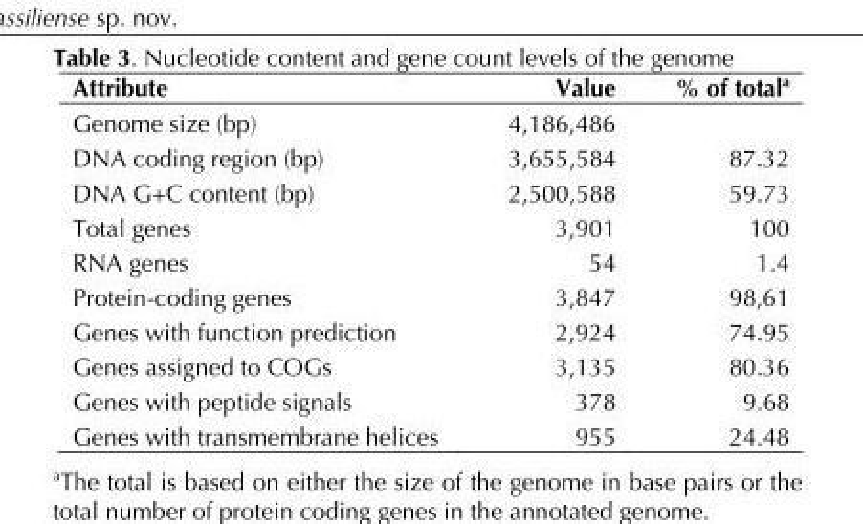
<table><thead><tr><td>Attribute</td><td>Value</td><td>% of total<sup>a</sup></td></tr></thead><tbody><tr><td>Genome size (bp)</td><td>4,186,486</td><td></td></tr><tr><td>DNA coding region (bp)</td><td>3,655,584</td><td>87.32</td></tr><tr><td>DNA G+C content (bp)</td><td>2,500,588</td><td>59.73</td></tr><tr><td>Total genes</td><td>3,901</td><td>100</td></tr><tr><td>RNA genes</td><td>54</td><td>1.4</td></tr><tr><td>Protein-coding genes</td><td>3,847</td><td>98,61</td></tr><tr><td>Genes with function prediction</td><td>2,924</td><td>74.95</td></tr><tr><td>Genes assigned to COGs</td><td>3,135</td><td>80.36</td></tr><tr><td>Genes with peptide signals</td><td>378</td><td>9.68</td></tr><tr><td>Genes with transmembrane helices</td><td>955</td><td>24.48</td></tr></tbody></table>